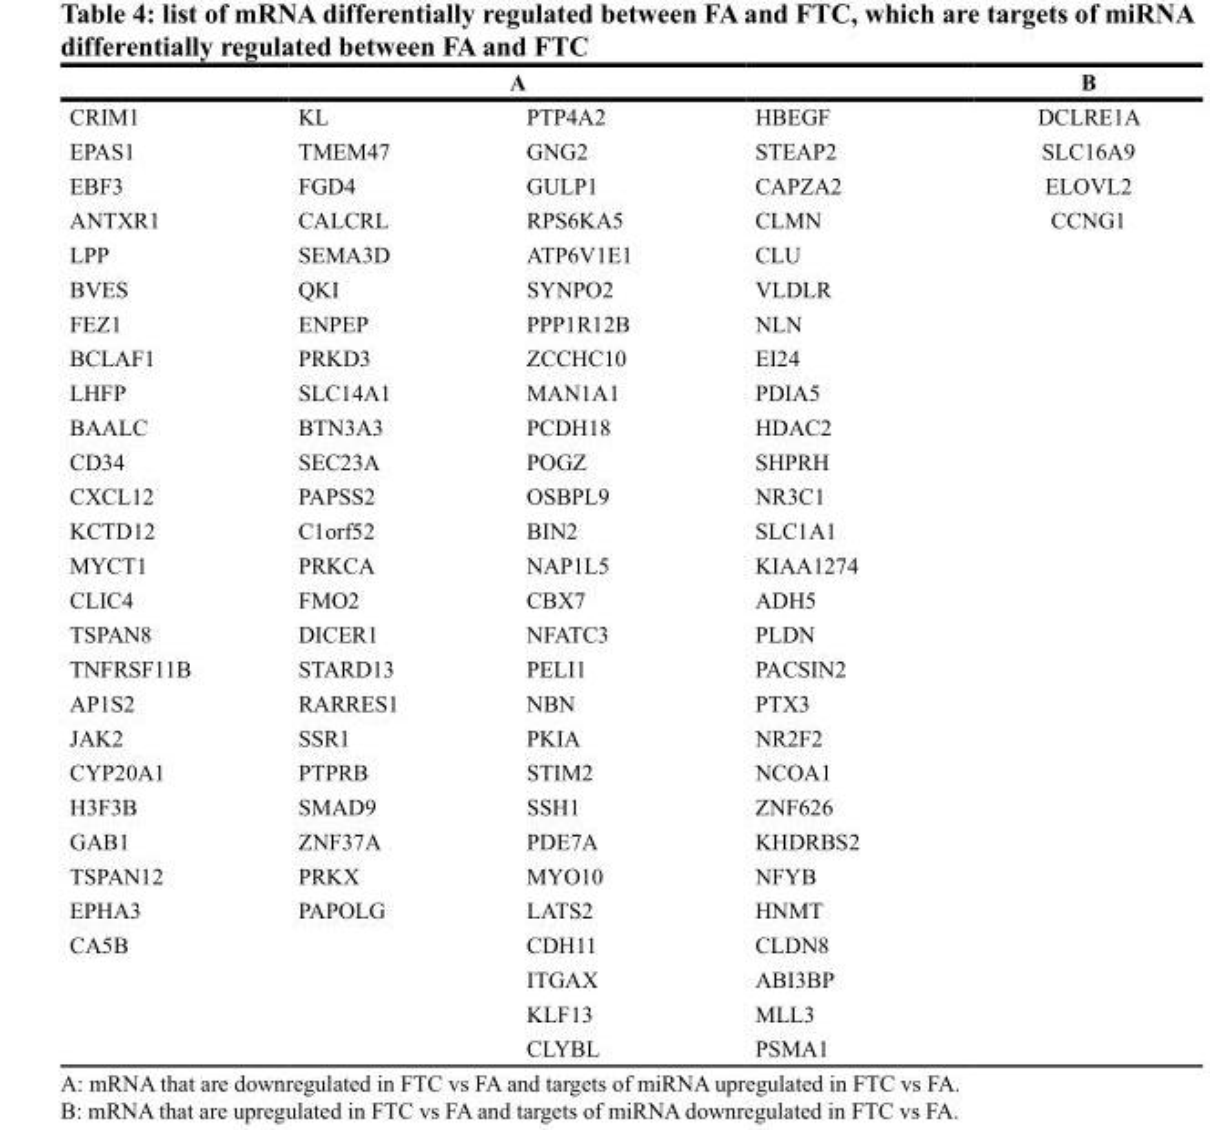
<table><thead><tr><td colspan="4">A</td><td rowspan="2">B DCLRE1A</td></tr><tr><td>CRIM1</td><td>KL</td><td>PTP4A2</td><td>HBEGF</td></tr></thead><tbody><tr><td>EPAS1</td><td>TMEM47</td><td>GNG2</td><td>STEAP2</td><td>SLC16A9</td></tr><tr><td>EBF3</td><td>FGD4</td><td>GULP1</td><td>CAPZA2</td><td>ELOVL2</td></tr><tr><td>ANTXR1</td><td>CALCRL</td><td>RPS6KA5</td><td>CLMN</td><td>CCNG1</td></tr><tr><td>LPP</td><td>SEMA3D</td><td>ATP6V1E1</td><td>CLU</td><td></td></tr><tr><td>BVES</td><td>QKI</td><td>SYNPO2</td><td>VLDLR</td><td></td></tr><tr><td>FEZ1</td><td>ENPEP</td><td>PPP1R12B</td><td>NLN</td><td></td></tr><tr><td>BCLAF1</td><td>PRKD3</td><td>ZCCHC10</td><td>EI24</td><td></td></tr><tr><td>LHFP</td><td>SLC14A1</td><td>MAN1A1</td><td>PDIA5</td><td></td></tr><tr><td>BAALC</td><td>BTN3A3</td><td>PCDH18</td><td>HDAC2</td><td></td></tr><tr><td>CD34</td><td>SEC23A</td><td>POGZ</td><td>SHPRH</td><td></td></tr><tr><td>CXCL12</td><td>PAPSS2</td><td>OSBPL9</td><td>NR3C1</td><td></td></tr><tr><td>KCTD12</td><td>C1orf52</td><td>BIN2</td><td>SLC1A1</td><td></td></tr><tr><td>MYCT1</td><td>PRKCA</td><td>NAP1L5</td><td>KIAA1274</td><td></td></tr><tr><td>CLIC4</td><td>FMO2</td><td>CBX7</td><td>ADH5</td><td></td></tr><tr><td>TSPAN8</td><td>DICER1</td><td>NFATC3</td><td>PLDN</td><td></td></tr><tr><td>TNFRSF11B</td><td>STARD13</td><td>PELI1</td><td>PACSIN2</td><td></td></tr><tr><td>AP1S2</td><td>RARRES1</td><td>NBN</td><td>PTX3</td><td></td></tr><tr><td>JAK2</td><td>SSR1</td><td>PKIA</td><td>NR2F2</td><td></td></tr><tr><td>CYP20A1</td><td>PTPRB</td><td>STIM2</td><td>NCOA1</td><td></td></tr><tr><td>H3F3B</td><td>SMAD9</td><td>SSH1</td><td>ZNF626</td><td></td></tr><tr><td>GAB1</td><td>ZNF37A</td><td>PDE7A</td><td>KHDRBS2</td><td></td></tr><tr><td>TSPAN12</td><td>PRKX</td><td>MYO10</td><td>NFYB</td><td></td></tr><tr><td>EPHA3</td><td>PAPOLG</td><td>LATS2</td><td>HNMT</td><td></td></tr><tr><td rowspan="4">CA5B</td><td></td><td>CDH11</td><td>CLDN8</td><td></td></tr><tr><td></td><td>ITGAX</td><td>ABI3BP</td><td></td></tr><tr><td></td><td>KLF13</td><td>MLL3</td><td></td></tr><tr><td></td><td>CLYBL</td><td>PSMA1</td><td></td></tr></tbody></table>